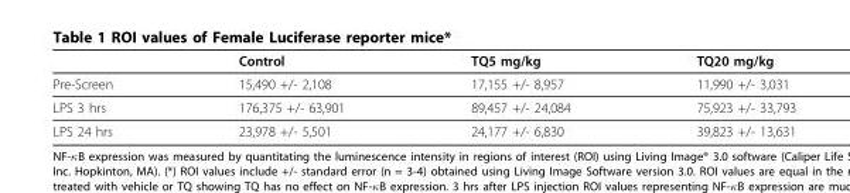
<table><thead><tr><td></td><td>Control</td><td>TQ5 mg/kg</td><td>TQ20 mg/kg</td></tr></thead><tbody><tr><td>Pre-Screen</td><td>15,490 +/- 2,108</td><td>17,155 +/- 8,957</td><td>11,990 +/- 3,031</td></tr><tr><td>LPS 3 hrs</td><td>176,375 +/- 63,901</td><td>89,457 +/- 24,084</td><td>75,923 +/- 33,793</td></tr><tr><td>LPS 24 hrs</td><td>23,978 +/- 5,501</td><td>24,177 +/- 6,830</td><td>39,823 +/- 13,631</td></tr></tbody></table>